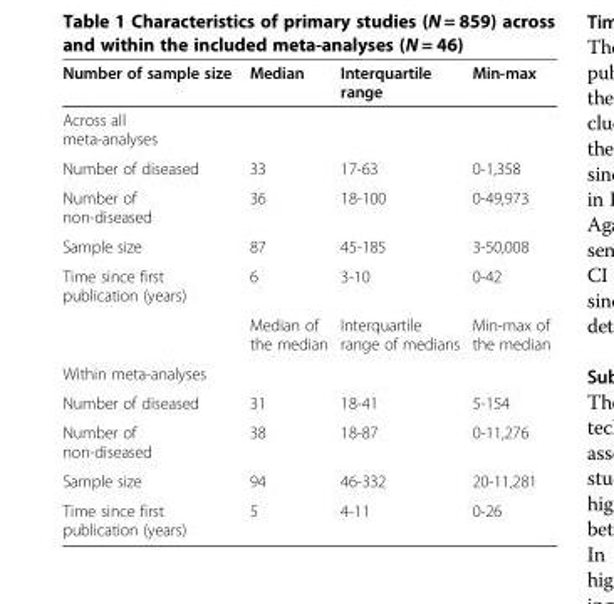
<table><thead><tr><td>Number of sample size</td><td>Median</td><td>Interquartile range</td><td>Min-max</td></tr></thead><tbody><tr><td colspan="4">Across all meta-analyses</td></tr><tr><td>Number of diseased</td><td>33</td><td>17-63</td><td>0-1,358</td></tr><tr><td>Number of non-diseased</td><td>36</td><td>18-100</td><td>0-49,973</td></tr><tr><td>Sample size</td><td>87</td><td>45-185</td><td>3-50,008</td></tr><tr><td rowspan="2">Time since first publication (years)</td><td>6</td><td>3-10</td><td>0-42</td></tr><tr><td>Median of the median</td><td>Interquartile range of medians</td><td>Min-max of the median</td></tr><tr><td colspan="4">Within meta-analyses</td></tr><tr><td>Number of diseased</td><td>31</td><td>18-41</td><td>5-154</td></tr><tr><td>Number of non-diseased</td><td>38</td><td>18-87</td><td>0-11,276</td></tr><tr><td>Sample size</td><td>94</td><td>46-332</td><td>20-11,281</td></tr><tr><td>Time since first publication (years)</td><td>5</td><td>4-11</td><td>0-26</td></tr></tbody></table>